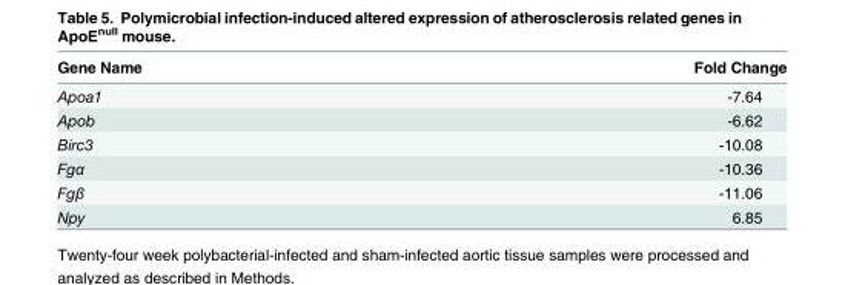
<table><thead><tr><td>Gene Name</td><td>Fold Change</td></tr></thead><tbody><tr><td>Apoa1</td><td>-7.64</td></tr><tr><td>Apob</td><td>-6.62</td></tr><tr><td>Birc3</td><td>-10.08</td></tr><tr><td>Fgα</td><td>-10.36</td></tr><tr><td>Fgβ</td><td>-11.06</td></tr><tr><td>Npy</td><td>6.85</td></tr></tbody></table>